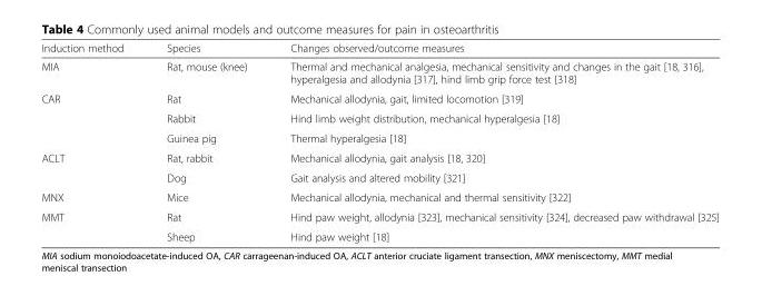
<table><thead><tr><td>Induction method</td><td>Species</td><td>Changes observed/outcome measures</td></tr></thead><tbody><tr><td>MIA</td><td>Rat, mouse (knee)</td><td>Thermal and mechanical analgesia, mechanical sensitivity and changes in the gait [18, 316], hyperalgesia and allodynia [317], hind limb grip force test [318]</td></tr><tr><td rowspan="3">CAR</td><td>Rat</td><td>Mechanical allodynia, gait, limited locomotion [319]</td></tr><tr><td>Rabbit</td><td>Hind limb weight distribution, mechanical hyperalgesia [18]</td></tr><tr><td>Guinea pig</td><td>Thermal hyperalgesia [18]</td></tr><tr><td rowspan="2">ACLT</td><td>Rat, rabbit</td><td>Mechanical allodynia, gait analysis [18, 320]</td></tr><tr><td>Dog</td><td>Gait analysis and altered mobility [321]</td></tr><tr><td>MNX</td><td>Mice</td><td>Mechanical allodynia, mechanical and thermal sensitivity [322]</td></tr><tr><td rowspan="2">MMT</td><td>Rat</td><td>Hind paw weight, allodynia [323], mechanical sensitivity [324], decreased paw withdrawal [325]</td></tr><tr><td>Sheep</td><td>Hind paw weight [18]</td></tr></tbody></table>